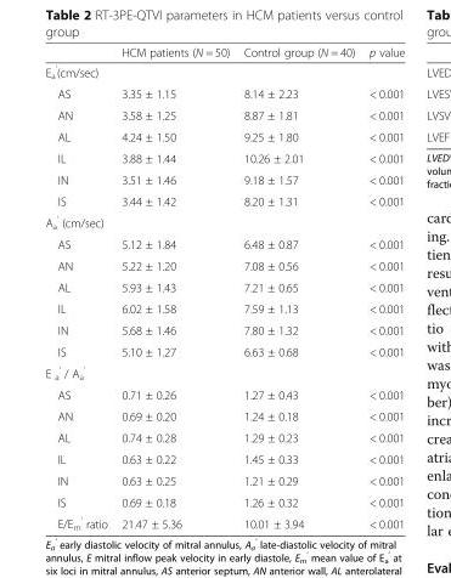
<table><thead><tr><td></td><td>HCM patients (N = 50)</td><td>Control group (N = 40)</td><td>p value</td></tr></thead><tbody><tr><td colspan="4">E<sub>a</sub> <sup>’</sup>(cm/sec)</td></tr><tr><td>AS</td><td>3.35 ± 1.15</td><td>8.14 ± 2.23</td><td>&lt; 0.001</td></tr><tr><td>AN</td><td>3.58 ± 1.25</td><td>8.87 ± 1.81</td><td>&lt; 0.001</td></tr><tr><td>AL</td><td>4.24 ± 1.50</td><td>9.25 ± 1.80</td><td>&lt; 0.001</td></tr><tr><td>IL</td><td>3.88 ± 1.44</td><td>10.26 ± 2.01</td><td>&lt; 0.001</td></tr><tr><td>IN</td><td>3.51 ± 1.46</td><td>9.18 ± 1.57</td><td>&lt; 0.001</td></tr><tr><td>IS</td><td>3.44 ± 1.42</td><td>8.20 ± 1.31</td><td>&lt; 0.001</td></tr><tr><td colspan="4">A<sub>a</sub> <sup>’</sup> (cm/sec)</td></tr><tr><td>AS</td><td>5.12 ± 1.84</td><td>6.48 ± 0.87</td><td>&lt; 0.001</td></tr><tr><td>AN</td><td>5.22 ± 1.20</td><td>7.08 ± 0.56</td><td>&lt; 0.001</td></tr><tr><td>AL</td><td>5.93 ± 1.43</td><td>7.21 ± 0.65</td><td>&lt; 0.001</td></tr><tr><td>IL</td><td>6.02 ± 1.58</td><td>7.59 ± 1.13</td><td>&lt; 0.001</td></tr><tr><td>IN</td><td>5.68 ± 1.46</td><td>7.80 ± 1.32</td><td>&lt; 0.001</td></tr><tr><td>IS</td><td>5.10 ± 1.27</td><td>6.63 ± 0.68</td><td>&lt; 0.001</td></tr><tr><td colspan="4">E <sub>a</sub> <sup>’</sup> / A<sub>a</sub> <sup>’</sup></td></tr><tr><td>AS</td><td>0.71 ± 0.26</td><td>1.27 ± 0.43</td><td>&lt; 0.001</td></tr><tr><td>AN</td><td>0.69 ± 0.20</td><td>1.24 ± 0.18</td><td>&lt; 0.001</td></tr><tr><td>AL</td><td>0.74 ± 0.28</td><td>1.29 ± 0.23</td><td>&lt; 0.001</td></tr><tr><td>IL</td><td>0.63 ± 0.22</td><td>1.45 ± 0.33</td><td>&lt; 0.001</td></tr><tr><td>IN</td><td>0.63 ± 0.25</td><td>1.21 ± 0.29</td><td>&lt; 0.001</td></tr><tr><td>IS</td><td>0.69 ± 0.18</td><td>1.26 ± 0.32</td><td>&lt; 0.001</td></tr><tr><td>E/E<sub>m</sub> <sup>’</sup> ratio</td><td>21.47 ± 5.36</td><td>10.01 ± 3.94</td><td>&lt; 0.001</td></tr></tbody></table>